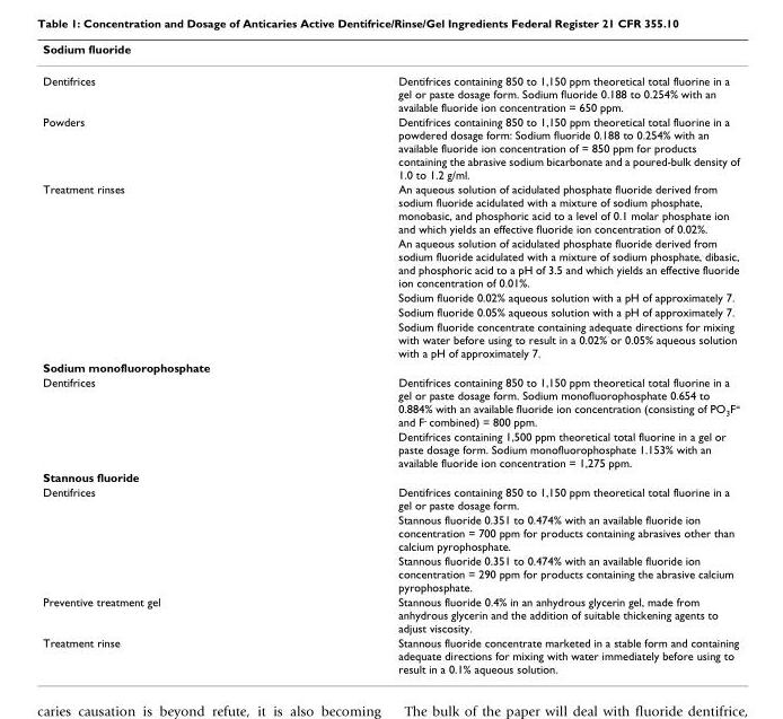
<table><thead><tr><td colspan="2">Sodium fluoride</td></tr><tr><td>Dentifrices</td><td>Dentifrices containing 850 to 1,150 ppm theoretical total fluorine in a gel or paste dosage form. Sodium fluoride 0.188 to 0.254% with an available fluoride ion concentration = 650 ppm.</td></tr></thead><tbody><tr><td>Powders</td><td>Dentifrices containing 850 to 1,150 ppm theoretical total fluorine in a powdered dosage form: Sodium fluoride 0.188 to 0.254% with an available fluoride ion concentration of = 850 ppm for products containing the abrasive sodium bicarbonate and a poured-bulk density of 1.0 to 1.2 g/ml.</td></tr><tr><td rowspan="5">Treatment rinses</td><td>An aqueous solution of acidulated phosphate fluoride derived from sodium fluoride acidulated with a mixture of sodium phosphate, monobasic, and phosphoric acid to a level of 0.1 molar phosphate ion and which yields an effective fluoride ion concentration of 0.02%.</td></tr><tr><td>An aqueous solution of acidulated phosphate fluoride derived from sodium fluoride acidulated with a mixture of sodium phosphate, dibasic, and phosphoric acid to a pH of 3.5 and which yields an effective fluoride ion concentration of 0.01%.</td></tr><tr><td>Sodium fluoride 0.02% aqueous solution with a pH of approximately 7.</td></tr><tr><td>Sodium fluoride 0.05% aqueous solution with a pH of approximately 7.</td></tr><tr><td>Sodium fluoride concentrate containing adequate directions for mixing with water before using to result in a 0.02% or 0.05% aqueous solution with a pH of approximately 7.</td></tr><tr><td colspan="2">Sodium monofluorophosphate</td></tr><tr><td rowspan="2">Dentifrices</td><td>Dentifrices containing 850 to 1,150 ppm theoretical total fluorine in a gel or paste dosage form. Sodium monofluorophosphate 0.654 to 0.884% with an available fluoride ion concentration (consisting of PO<sub>3</sub>F<sup>=</sup> and F<sup>-</sup> combined) = 800 ppm.</td></tr><tr><td>Dentifrices containing 1,500 ppm theoretical total fluorine in a gel or paste dosage form. Sodium monofluorophosphate 1.153% with an available fluoride ion concentration = 1,275 ppm.</td></tr><tr><td colspan="2">Stannous fluoride</td></tr><tr><td rowspan="3">Dentifrices</td><td>Dentifrices containing 850 to 1,150 ppm theoretical total fluorine in a gel or paste dosage form.</td></tr><tr><td>Stannous fluoride 0.351 to 0.474% with an available fluoride ion concentration = 700 ppm for products containing abrasives other than calcium pyrophosphate.</td></tr><tr><td>Stannous fluoride 0.351 to 0.474% with an available fluoride ion concentration = 290 ppm for products containing the abrasive calcium pyrophosphate.</td></tr><tr><td>Preventive treatment gel</td><td>Stannous fluoride 0.4% in an anhydrous glycerin gel, made from anhydrous glycerin and the addition of suitable thickening agents to adjust viscosity.</td></tr><tr><td>Treatment rinse</td><td>Stannous fluoride concentrate marketed in a stable form and containing adequate directions for mixing with water immediately before using to result in a 0.1% aqueous solution.</td></tr></tbody></table>